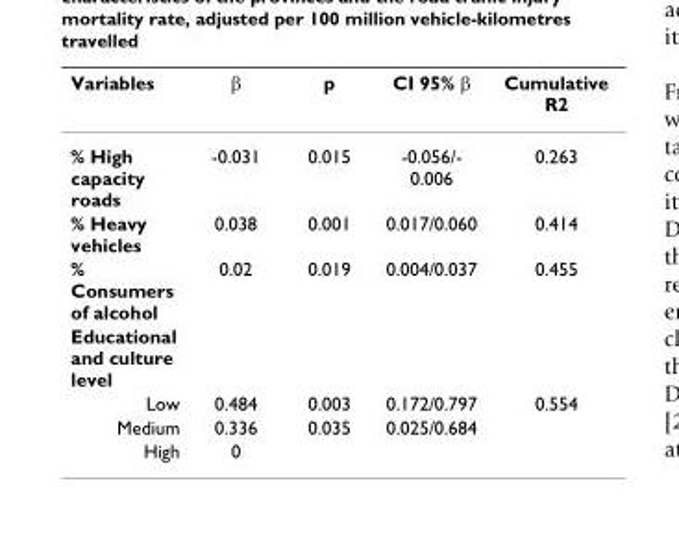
<table><thead><tr><td>Variables</td><td>β</td><td>p</td><td>CI 95% β</td><td>Cumulative R2</td></tr></thead><tbody><tr><td>% High capacity roads</td><td>-0.031</td><td>0.015</td><td>-0.056/- 0.006</td><td>0.263</td></tr><tr><td>% Heavy vehicles</td><td>0.038</td><td>0.001</td><td>0.017/0.060</td><td>0.414</td></tr><tr><td>% Consumers of alcohol</td><td>0.02</td><td>0.019</td><td>0.004/0.037</td><td>0.455</td></tr><tr><td colspan="5">Educational and culture level</td></tr><tr><td>Low</td><td>0.484</td><td>0.003</td><td>0.172/0.797</td><td>0.554</td></tr><tr><td>Medium</td><td>0.336</td><td>0.035</td><td>0.025/0.684</td><td></td></tr><tr><td>High</td><td>0</td><td></td><td></td><td></td></tr></tbody></table>